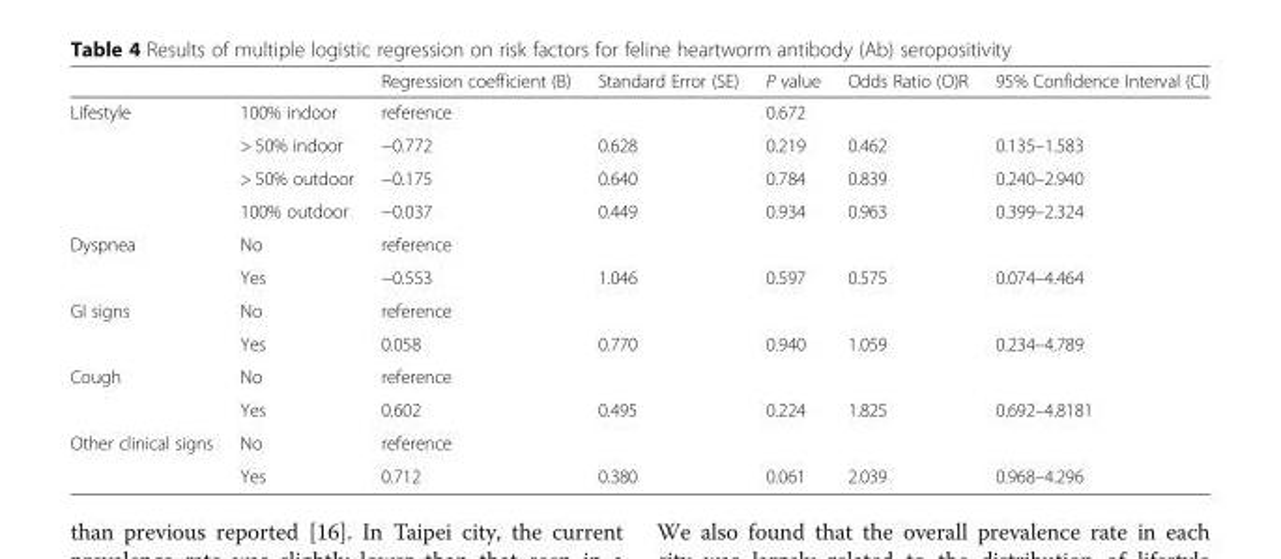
<table><thead><tr><td></td><td></td><td>Regression coefficient (B)</td><td>Standard Error (SE)</td><td>P value</td><td>Odds Ratio (O)R</td><td>95% Confidence Interval (CI)</td></tr></thead><tbody><tr><td rowspan="4">Lifestyle</td><td>100% indoor</td><td>reference</td><td></td><td>0.672</td><td></td><td></td></tr><tr><td>&gt; 50% indoor</td><td>−0.772</td><td>0.628</td><td>0.219</td><td>0.462</td><td>0.135–1.583</td></tr><tr><td>&gt; 50% outdoor</td><td>−0.175</td><td>0.640</td><td>0.784</td><td>0.839</td><td>0.240–2.940</td></tr><tr><td>100% outdoor</td><td>−0.037</td><td>0.449</td><td>0.934</td><td>0.963</td><td>0.399–2.324</td></tr><tr><td rowspan="2">Dyspnea</td><td>No</td><td>reference</td><td></td><td></td><td></td><td></td></tr><tr><td>Yes</td><td>−0.553</td><td>1.046</td><td>0.597</td><td>0.575</td><td>0.074–4.464</td></tr><tr><td rowspan="2">GI signs</td><td>No</td><td>reference</td><td></td><td></td><td></td><td></td></tr><tr><td>Yes</td><td>0.058</td><td>0.770</td><td>0.940</td><td>1.059</td><td>0.234–4.789</td></tr><tr><td rowspan="2">Cough</td><td>No</td><td>reference</td><td></td><td></td><td></td><td></td></tr><tr><td>Yes</td><td>0.602</td><td>0.495</td><td>0.224</td><td>1.825</td><td>0.692–4.8181</td></tr><tr><td rowspan="2">Other clinical signs</td><td>No</td><td>reference</td><td></td><td></td><td></td><td></td></tr><tr><td>Yes</td><td>0.712</td><td>0.380</td><td>0.061</td><td>2.039</td><td>0.968–4.296</td></tr></tbody></table>